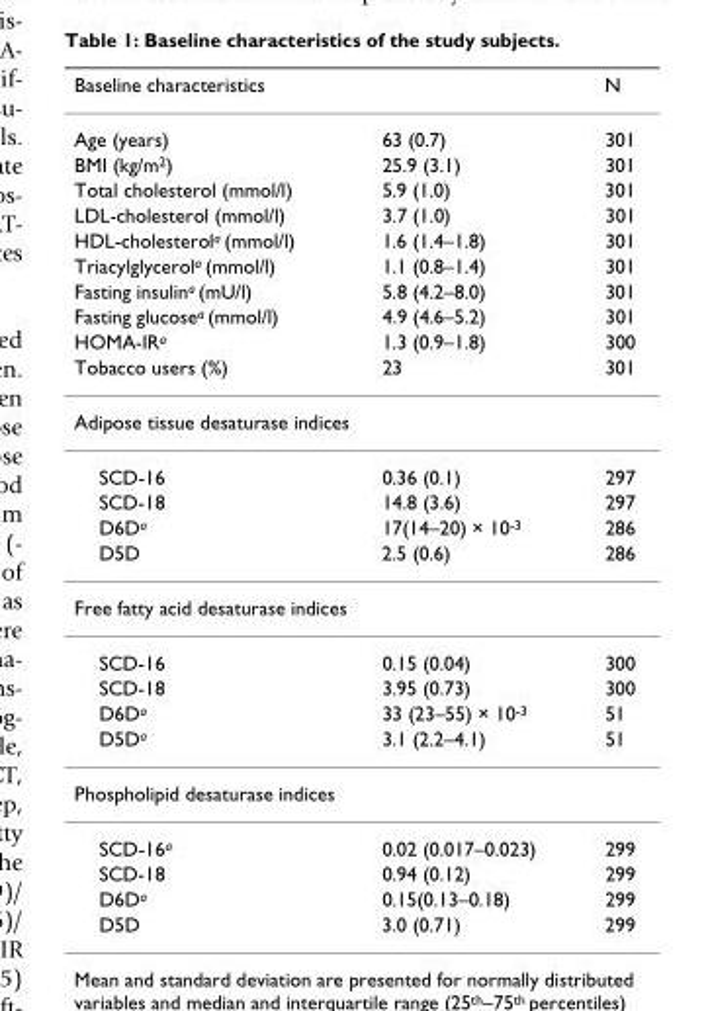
<table><thead><tr><td>Baseline characteristics</td><td></td><td>N</td></tr></thead><tbody><tr><td>Age (years)</td><td>63 (0.7)</td><td>301</td></tr><tr><td>BMI (kg/m<sup>2</sup>)</td><td>25.9 (3.1)</td><td>301</td></tr><tr><td>Total cholesterol (mmol/l)</td><td>5.9 (1.0)</td><td>301</td></tr><tr><td>LDL-cholesterol (mmol/l)</td><td>3.7 (1.0)</td><td>301</td></tr><tr><td>HDL-cholesterol<sup>a</sup> (mmol/l)</td><td>1.6 (1.4–1.8)</td><td>301</td></tr><tr><td>Triacylglycerol<sup>a</sup> (mmol/l)</td><td>1.1 (0.8–1.4)</td><td>301</td></tr><tr><td>Fasting insulin<sup>a</sup> (mU/l)</td><td>5.8 (4.2–8.0)</td><td>301</td></tr><tr><td>Fasting glucose<sup>a</sup> (mmol/l)</td><td>4.9 (4.6–5.2)</td><td>301</td></tr><tr><td>HOMA-IR<sup>a</sup></td><td>1.3 (0.9–1.8)</td><td>300</td></tr><tr><td>Tobacco users (%)</td><td>23</td><td>301</td></tr><tr><td colspan="3">Adipose tissue desaturase indices</td></tr><tr><td>SCD-16</td><td>0.36 (0.1)</td><td>297</td></tr><tr><td>SCD-18</td><td>14.8 (3.6)</td><td>297</td></tr><tr><td>D6D<sup>a</sup></td><td>17(14–20) × 10<sup>-3</sup></td><td>286</td></tr><tr><td>D5D</td><td>2.5 (0.6)</td><td>286</td></tr><tr><td colspan="3">Free fatty acid desaturase indices</td></tr><tr><td>SCD-16</td><td>0.15 (0.04)</td><td>300</td></tr><tr><td>SCD-18</td><td>3.95 (0.73)</td><td>300</td></tr><tr><td>D6D<sup>a</sup></td><td>33 (23–55) × 10<sup>-3</sup></td><td>51</td></tr><tr><td>D5D<sup>a</sup></td><td>3.1 (2.2–4.1)</td><td>51</td></tr><tr><td colspan="3">Phospholipid desaturase indices</td></tr><tr><td>SCD-16<sup>a</sup></td><td>0.02 (0.017–0.023)</td><td>299</td></tr><tr><td>SCD-18</td><td>0.94 (0.12)</td><td>299</td></tr><tr><td>D6D<sup>a</sup></td><td>0.15(0.13–0.18)</td><td>299</td></tr><tr><td>D5D</td><td>3.0 (0.71)</td><td>299</td></tr></tbody></table>